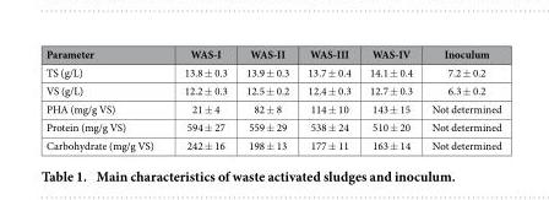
<table><thead><tr><td>Parameter</td><td>WAS-I</td><td>WAS-II</td><td>WAS-III</td><td>WAS-IV</td><td>Inoculum</td></tr></thead><tbody><tr><td>TS (g/L)</td><td>13.8 ± 0.3</td><td>13.9 ± 0.3</td><td>13.7 ± 0.4</td><td>14.1 ± 0.4</td><td>7.2 ± 0.2</td></tr><tr><td>VS (g/L)</td><td>12.2 ± 0.3</td><td>12.5 ± 0.2</td><td>12.4 ± 0.3</td><td>12.7 ± 0.3</td><td>6.3 ± 0.2</td></tr><tr><td>PHA (mg/g VS)</td><td>21 ± 4</td><td>82 ± 8</td><td>114 ± 10</td><td>143 ± 15</td><td>Not determined</td></tr><tr><td>Protein (mg/g VS)</td><td>594 ± 27</td><td>559 ± 29</td><td>538 ± 24</td><td>510 ± 20</td><td>Not determined</td></tr><tr><td>Carbohydrate (mg/g VS)</td><td>242 ± 16</td><td>198 ± 13</td><td>177 ± 11</td><td>163 ± 14</td><td>Not determined</td></tr></tbody></table>